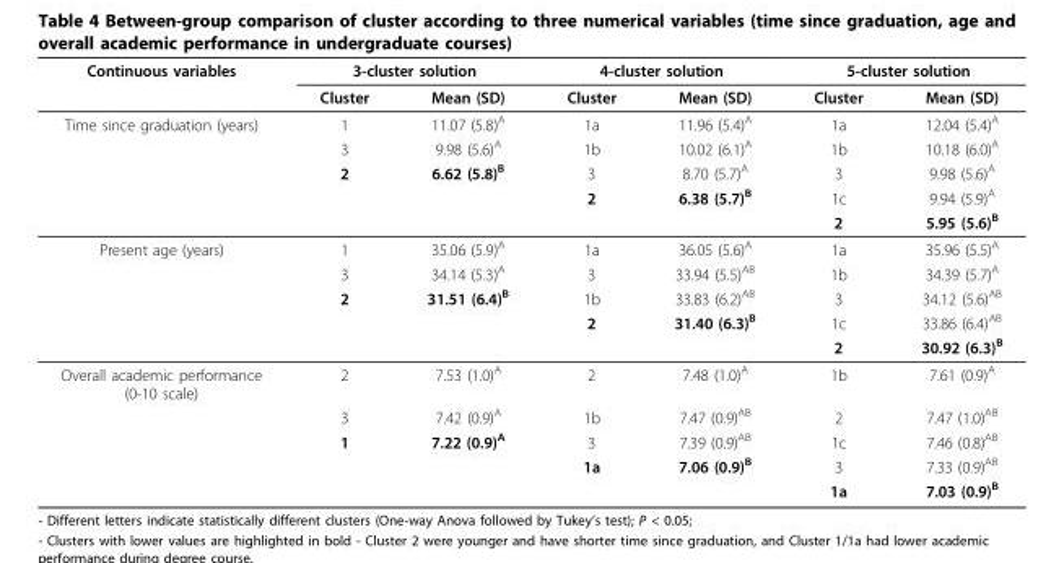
<table><thead><tr><td rowspan="2">Continuous variables</td><td colspan="2">3-cluster solution</td><td colspan="2">4-cluster solution</td><td colspan="2">5-cluster solution</td></tr><tr><td>Cluster</td><td>Mean (SD)</td><td>Cluster</td><td>Mean (SD)</td><td>Cluster</td><td>Mean (SD)</td></tr></thead><tbody><tr><td rowspan="5">Time since graduation (years)</td><td>1</td><td>11.07 (5.8)<sup>A</sup></td><td>1a</td><td>11.96 (5.4)<sup>A</sup></td><td>1a</td><td>12.04 (5.4)<sup>A</sup></td></tr><tr><td>3</td><td>9.98 (5.6)<sup>A</sup></td><td>1b</td><td>10.02 (6.1)<sup>A</sup></td><td>1b</td><td>10.18 (6.0)<sup>A</sup></td></tr><tr><td>2</td><td>6.62 (5.8)<sup>B</sup></td><td>3</td><td>8.70 (5.7)<sup>A</sup></td><td>3</td><td>9.98 (5.6)<sup>A</sup></td></tr><tr><td></td><td></td><td>2</td><td>6.38 (5.7)<sup>B</sup></td><td>1c</td><td>9.94 (5.9)<sup>A</sup></td></tr><tr><td></td><td></td><td></td><td></td><td>2</td><td>5.95 (5.6)<sup>B</sup></td></tr><tr><td rowspan="5">Present age (years)</td><td>1</td><td>35.06 (5.9)<sup>A</sup></td><td>1a</td><td>36.05 (5.6)<sup>A</sup></td><td>1a</td><td>35.96 (5.5)<sup>A</sup></td></tr><tr><td>3</td><td>34.14 (5.3)<sup>A</sup></td><td>3</td><td>33.94 (5.5)<sup>AB</sup></td><td>1b</td><td>34.39 (5.7)<sup>A</sup></td></tr><tr><td>2</td><td>31.51 (6.4)<sup>B</sup></td><td>1b</td><td>33.83 (6.2)<sup>AB</sup></td><td>3</td><td>34.12 (5.6)<sup>AB</sup></td></tr><tr><td></td><td></td><td>2</td><td>31.40 (6.3)<sup>B</sup></td><td>1c</td><td>33.86 (6.4)<sup>AB</sup></td></tr><tr><td></td><td></td><td></td><td></td><td>2</td><td>30.92 (6.3)<sup>B</sup></td></tr><tr><td rowspan="5">Overall academic performance (0-10 scale)</td><td>2</td><td>7.53 (1.0)<sup>A</sup></td><td>2</td><td>7.48 (1.0)<sup>A</sup></td><td>1b</td><td>7.61 (0.9)<sup>A</sup></td></tr><tr><td>3</td><td>7.42 (0.9)<sup>A</sup></td><td>1b</td><td>7.47 (0.9)<sup>AB</sup></td><td>2</td><td>7.47 (1.0)<sup>AB</sup></td></tr><tr><td>1</td><td>7.22 (0.9)<sup>A</sup></td><td>3</td><td>7.39 (0.9)<sup>AB</sup></td><td>1c</td><td>7.46 (0.8)<sup>AB</sup></td></tr><tr><td></td><td></td><td>1a</td><td>7.06 (0.9)<sup>B</sup></td><td>3</td><td>7.33 (0.9)<sup>AB</sup></td></tr><tr><td></td><td></td><td></td><td></td><td>1a</td><td>7.03 (0.9)<sup>B</sup></td></tr></tbody></table>